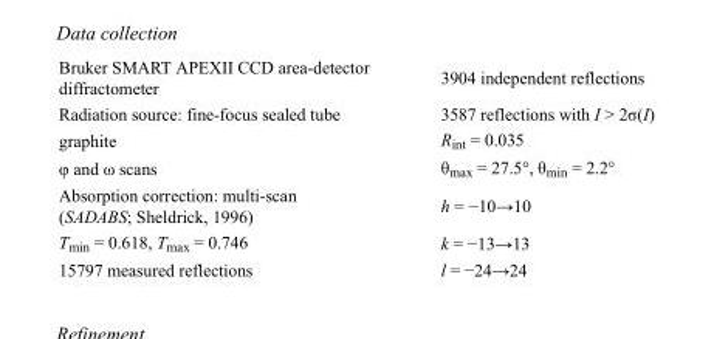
<table><tbody><tr><td>Bruker SMART APEXII CCD area-detector diffractometer</td><td>3904 independent reflections</td></tr><tr><td>Radiation source: fine-focus sealed tube</td><td>3587 reflections with I &gt; 2σ(I)</td></tr><tr><td>graphite</td><td>R<sub>int</sub> = 0.035</td></tr><tr><td>φ and ω scans</td><td>θ<sub>max</sub> = 27.5°, θ<sub>min</sub> = 2.2°</td></tr><tr><td>Absorption correction: multi-scan (SADABS; Sheldrick, 1996)</td><td>h = −10→10</td></tr><tr><td>T<sub>min</sub> = 0.618, T<sub>max</sub> = 0.746</td><td>k = −13→13</td></tr><tr><td>15797 measured reflections</td><td>l = −24→24</td></tr></tbody></table>